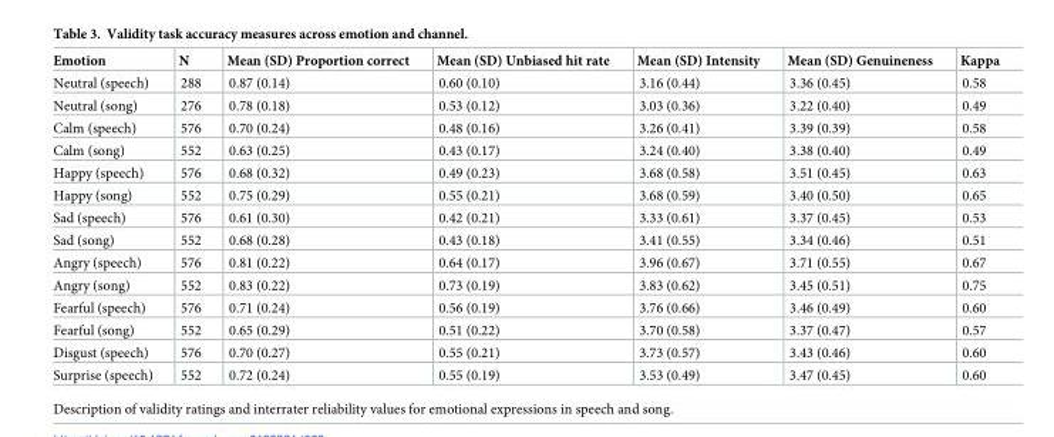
<table><thead><tr><td>Emotion</td><td>N</td><td>Mean (SD) Proportion correct</td><td>Mean (SD) Unbiased hit rate</td><td>Mean (SD) Intensity</td><td>Mean (SD) Genuineness</td><td>Kappa</td></tr></thead><tbody><tr><td>Neutral (speech)</td><td>288</td><td>0.87 (0.14)</td><td>0.60 (0.10)</td><td>3.16 (0.44)</td><td>3.36 (0.45)</td><td>0.58</td></tr><tr><td>Neutral (song)</td><td>276</td><td>0.78 (0.18)</td><td>0.53 (0.12)</td><td>3.03 (0.36)</td><td>3.22 (0.40)</td><td>0.49</td></tr><tr><td>Calm (speech)</td><td>576</td><td>0.70 (0.24)</td><td>0.48 (0.16)</td><td>3.26 (0.41)</td><td>3.39 (0.39)</td><td>0.58</td></tr><tr><td>Calm (song)</td><td>552</td><td>0.63 (0.25)</td><td>0.43 (0.17)</td><td>3.24 (0.40)</td><td>3.38 (0.40)</td><td>0.49</td></tr><tr><td>Happy (speech)</td><td>576</td><td>0.68 (0.32)</td><td>0.49 (0.23)</td><td>3.68 (0.58)</td><td>3.51 (0.45)</td><td>0.63</td></tr><tr><td>Happy (song)</td><td>552</td><td>0.75 (0.29)</td><td>0.55 (0.21)</td><td>3.68 (0.59)</td><td>3.40 (0.50)</td><td>0.65</td></tr><tr><td>Sad (speech)</td><td>576</td><td>0.61 (0.30)</td><td>0.42 (0.21)</td><td>3.33 (0.61)</td><td>3.37 (0.45)</td><td>0.53</td></tr><tr><td>Sad (song)</td><td>552</td><td>0.68 (0.28)</td><td>0.43 (0.18)</td><td>3.41 (0.55)</td><td>3.34 (0.46)</td><td>0.51</td></tr><tr><td>Angry (speech)</td><td>576</td><td>0.81 (0.22)</td><td>0.64 (0.17)</td><td>3.96 (0.67)</td><td>3.71 (0.55)</td><td>0.67</td></tr><tr><td>Angry (song)</td><td>552</td><td>0.83 (0.22)</td><td>0.73 (0.19)</td><td>3.83 (0.62)</td><td>3.45 (0.51)</td><td>0.75</td></tr><tr><td>Fearful (speech)</td><td>576</td><td>0.71 (0.24)</td><td>0.56 (0.19)</td><td>3.76 (0.66)</td><td>3.46 (0.49)</td><td>0.60</td></tr><tr><td>Fearful (song)</td><td>552</td><td>0.65 (0.29)</td><td>0.51 (0.22)</td><td>3.70 (0.58)</td><td>3.37 (0.47)</td><td>0.57</td></tr><tr><td>Disgust (speech)</td><td>576</td><td>0.70 (0.27)</td><td>0.55 (0.21)</td><td>3.73 (0.57)</td><td>3.43 (0.46)</td><td>0.60</td></tr><tr><td>Surprise (speech)</td><td>552</td><td>0.72 (0.24)</td><td>0.55 (0.19)</td><td>3.53 (0.49)</td><td>3.47 (0.45)</td><td>0.60</td></tr></tbody></table>